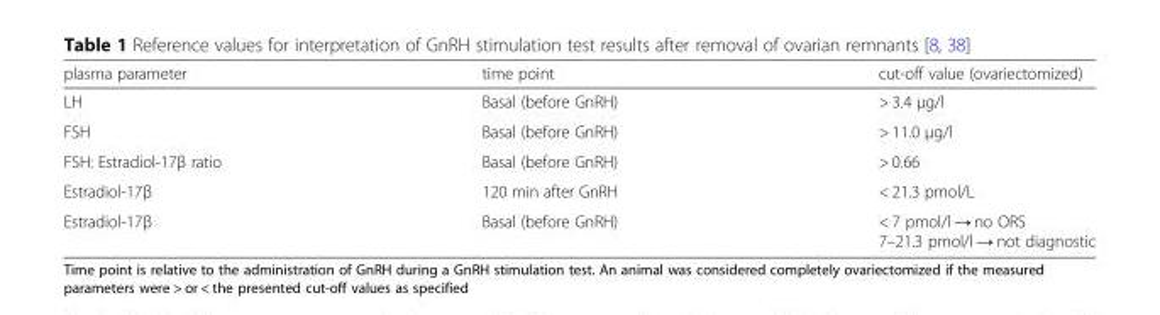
<table><thead><tr><td>plasma parameter</td><td>time point</td><td>cut-off value (ovariectomized)</td></tr></thead><tbody><tr><td>LH</td><td>Basal (before GnRH)</td><td>&gt; 3.4 μg/l</td></tr><tr><td>FSH</td><td>Basal (before GnRH)</td><td>&gt; 11.0 μg/l</td></tr><tr><td>FSH: Estradiol-17β ratio</td><td>Basal (before GnRH)</td><td>&gt; 0.66</td></tr><tr><td>Estradiol-17β</td><td>120 min after GnRH</td><td>&lt; 21.3 pmol/L</td></tr><tr><td>Estradiol-17β</td><td>Basal (before GnRH)</td><td>&lt; 7 pmol/l → no ORS 7–21.3 pmol/l → not diagnostic</td></tr></tbody></table>